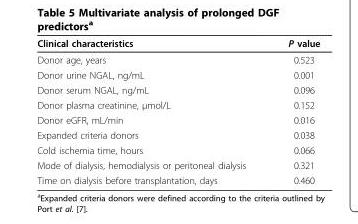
<table><thead><tr><td>Clinical characteristics</td><td>P value</td></tr></thead><tbody><tr><td>Donor age, years</td><td>0.523</td></tr><tr><td>Donor urine NGAL, ng/mL</td><td>0.001</td></tr><tr><td>Donor serum NGAL, ng/mL</td><td>0.096</td></tr><tr><td>Donor plasma creatinine, μmol/L</td><td>0.152</td></tr><tr><td>Donor eGFR, mL/min</td><td>0.016</td></tr><tr><td>Expanded criteria donors</td><td>0.038</td></tr><tr><td>Cold ischemia time, hours</td><td>0.066</td></tr><tr><td>Mode of dialysis, hemodialysis or peritoneal dialysis</td><td>0.321</td></tr><tr><td>Time on dialysis before transplantation, days</td><td>0.460</td></tr></tbody></table>